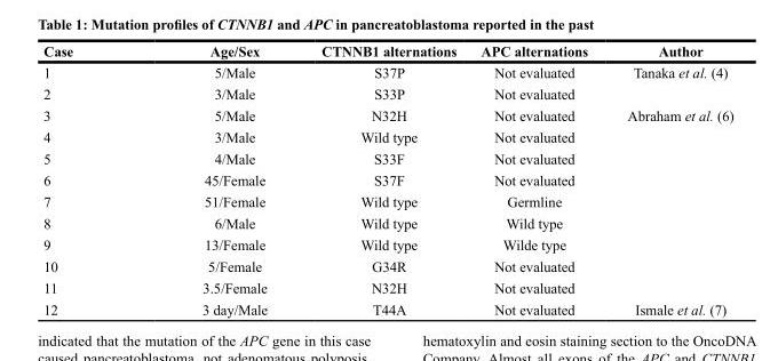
<table><thead><tr><td>Case</td><td>Age/Sex</td><td>CTNNB1 alternations</td><td>APC alternations</td><td>Author</td></tr></thead><tbody><tr><td>1</td><td>5/Male</td><td>S37P</td><td>Not evaluated</td><td>Tanaka et al. (4)</td></tr><tr><td>2</td><td>3/Male</td><td>S33P</td><td>Not evaluated</td><td></td></tr><tr><td>3</td><td>5/Male</td><td>N32H</td><td>Not evaluated</td><td>Abraham et al. (6)</td></tr><tr><td>4</td><td>3/Male</td><td>Wild type</td><td>Not evaluated</td><td></td></tr><tr><td>5</td><td>4/Male</td><td>S33F</td><td>Not evaluated</td><td></td></tr><tr><td>6</td><td>45/Female</td><td>S37F</td><td>Not evaluated</td><td></td></tr><tr><td>7</td><td>51/Female</td><td>Wild type</td><td>Germline</td><td></td></tr><tr><td>8</td><td>6/Male</td><td>Wild type</td><td>Wild type</td><td></td></tr><tr><td>9</td><td>13/Female</td><td>Wild type</td><td>Wilde type</td><td></td></tr><tr><td>10</td><td>5/Female</td><td>G34R</td><td>Not evaluated</td><td></td></tr><tr><td>11</td><td>3.5/Female</td><td>N32H</td><td>Not evaluated</td><td></td></tr><tr><td>12</td><td>3 day/Male</td><td>T44A</td><td>Not evaluated</td><td>Ismale et al. (7)</td></tr></tbody></table>